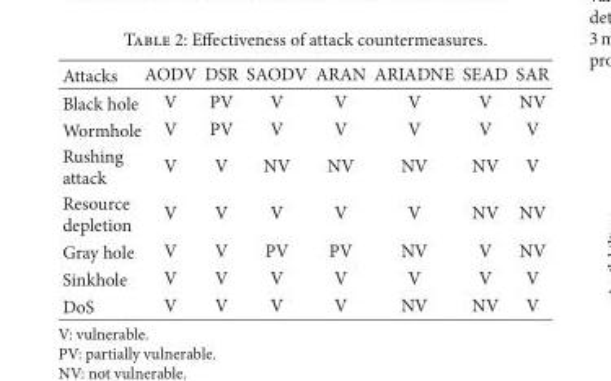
<table><thead><tr><td>Attacks</td><td>AODV</td><td>DSR</td><td>SAODV</td><td>ARAN</td><td>ARIADNE</td><td>SEAD</td><td>SAR</td></tr></thead><tbody><tr><td>Black hole</td><td>V</td><td>PV</td><td>V</td><td>V</td><td>V</td><td>V</td><td>NV</td></tr><tr><td>Wormhole</td><td>V</td><td>PV</td><td>V</td><td>V</td><td>V</td><td>V</td><td>V</td></tr><tr><td>Rushing attack</td><td>V</td><td>V</td><td>NV</td><td>NV</td><td>NV</td><td>NV</td><td>V</td></tr><tr><td>Resource depletion</td><td>V</td><td>V</td><td>V</td><td>V</td><td>V</td><td>NV</td><td>NV</td></tr><tr><td>Gray hole</td><td>V</td><td>V</td><td>PV</td><td>PV</td><td>NV</td><td>V</td><td>NV</td></tr><tr><td>Sinkhole</td><td>V</td><td>V</td><td>V</td><td>V</td><td>V</td><td>V</td><td>V</td></tr><tr><td>DoS</td><td>V</td><td>V</td><td>V</td><td>V</td><td>NV</td><td>NV</td><td>V</td></tr></tbody></table>